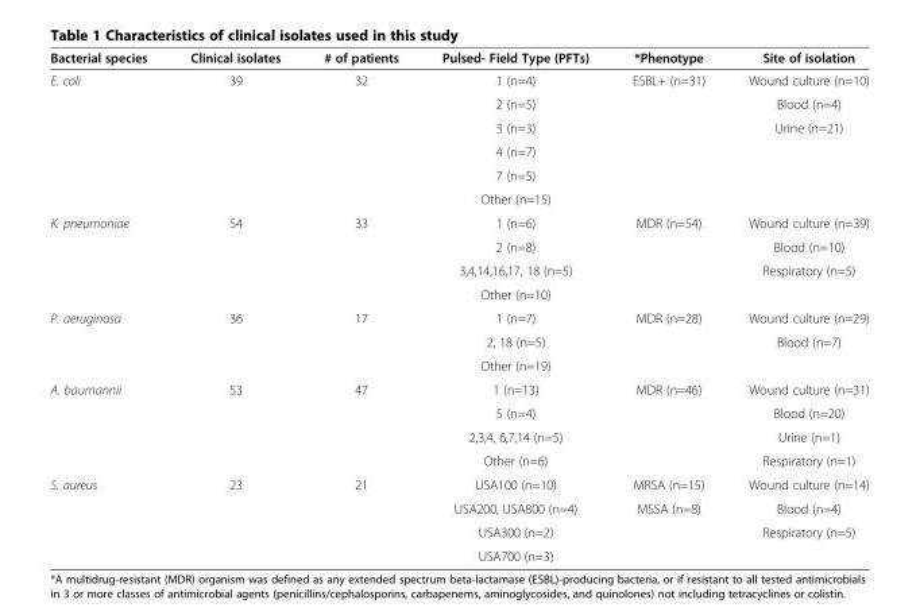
<table><thead><tr><td>Bacterial species</td><td>Clinical isolates</td><td># of patients</td><td>Pulsed- Field Type (PFTs)</td><td>*Phenotype</td><td>Site of isolation</td></tr></thead><tbody><tr><td rowspan="6">E. coli</td><td>39</td><td>32</td><td>1 (n=4)</td><td>ESBL+ (n=31)</td><td>Wound culture (n=10)</td></tr><tr><td></td><td></td><td>2 (n=5)</td><td></td><td>Blood (n=4)</td></tr><tr><td></td><td></td><td>3 (n=3)</td><td></td><td>Urine (n=21)</td></tr><tr><td></td><td></td><td>4 (n=7)</td><td></td><td></td></tr><tr><td></td><td></td><td>7 (n=5)</td><td></td><td></td></tr><tr><td></td><td></td><td>Other (n=15)</td><td></td><td></td></tr><tr><td rowspan="4">K. pneumoniae</td><td>54</td><td>33</td><td>1 (n=6)</td><td>MDR (n=54)</td><td>Wound culture (n=39)</td></tr><tr><td></td><td></td><td>2 (n=8)</td><td></td><td>Blood (n=10)</td></tr><tr><td></td><td></td><td>3,4,14,16,17, 18 (n=5)</td><td></td><td>Respiratory (n=5)</td></tr><tr><td></td><td></td><td>Other (n=10)</td><td></td><td></td></tr><tr><td rowspan="3">P. aeruginosa</td><td>36</td><td>17</td><td>1 (n=7)</td><td>MDR (n=28)</td><td>Wound culture (n=29)</td></tr><tr><td></td><td></td><td>2, 18 (n=5)</td><td></td><td>Blood (n=7)</td></tr><tr><td></td><td></td><td>Other (n=19)</td><td></td><td></td></tr><tr><td rowspan="4">A. baumannii</td><td>53</td><td>47</td><td>1 (n=13)</td><td>MDR (n=46)</td><td>Wound culture (n=31)</td></tr><tr><td rowspan="2"></td><td rowspan="2"></td><td>5 (n=4)</td><td></td><td>Blood (n=20)</td></tr><tr><td>2,3,4, 6,7,14 (n=5)</td><td></td><td>Urine (n=1)</td></tr><tr><td></td><td></td><td>Other (n=6)</td><td></td><td>Respiratory (n=1)</td></tr><tr><td rowspan="4">S. aureus</td><td>23</td><td>21</td><td>USA100 (n=10)</td><td>MRSA (n=15)</td><td>Wound culture (n=14)</td></tr><tr><td></td><td></td><td>USA200, USA800 (n=4)</td><td>MSSA (n=8)</td><td>Blood (n=4)</td></tr><tr><td></td><td></td><td>USA300 (n=2)</td><td></td><td>Respiratory (n=5)</td></tr><tr><td></td><td></td><td>USA700 (n=3)</td><td></td><td></td></tr></tbody></table>